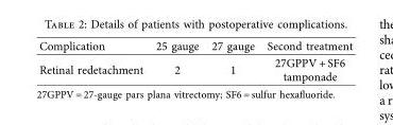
<table><thead><tr><td>Complication</td><td>25 gauge</td><td>27 gauge</td><td>Second treatment</td></tr></thead><tbody><tr><td>Retinal redetachment</td><td>2</td><td>1</td><td>27GPPV + SF6 tamponade</td></tr></tbody></table>